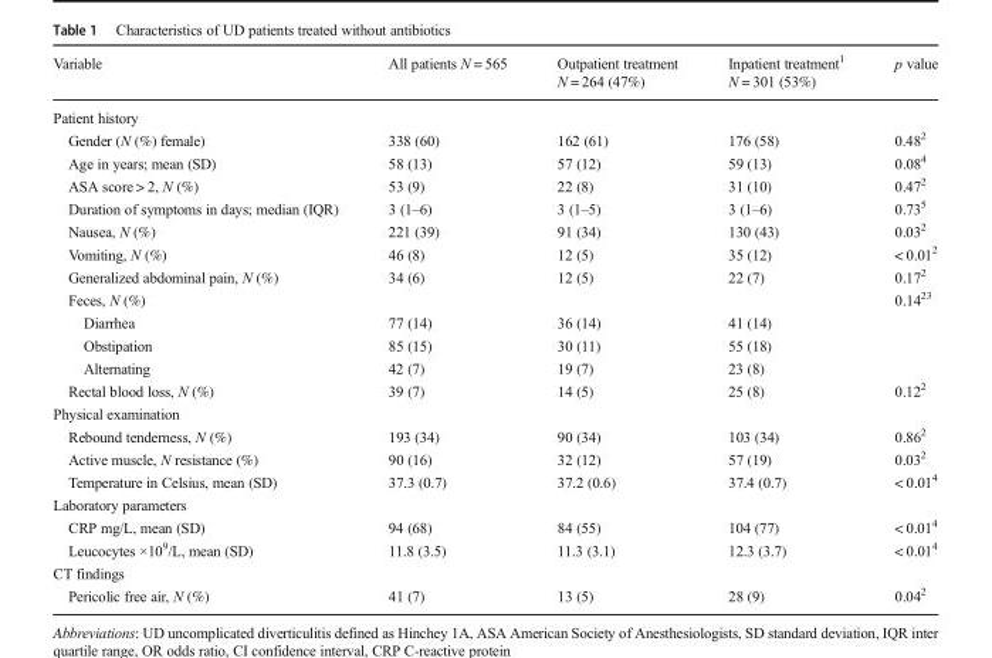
<table><thead><tr><td>Variable</td><td>All patients N = 565</td><td>Outpatient treatment N = 264 (47%)</td><td>Inpatient treatment<sup>1</sup> N = 301 (53%)</td><td>p value</td></tr></thead><tbody><tr><td colspan="5">Patient history</td></tr><tr><td>Gender (N (%) female)</td><td>338 (60)</td><td>162 (61)</td><td>176 (58)</td><td>0.48<sup>2</sup></td></tr><tr><td>Age in years; mean (SD)</td><td>58 (13)</td><td>57 (12)</td><td>59 (13)</td><td>0.08<sup>4</sup></td></tr><tr><td>ASA score &gt; 2, N (%)</td><td>53 (9)</td><td>22 (8)</td><td>31 (10)</td><td>0.47<sup>2</sup></td></tr><tr><td>Duration of symptoms in days; median (IQR)</td><td>3 (1–6)</td><td>3 (1–5)</td><td>3 (1–6)</td><td>0.73<sup>5</sup></td></tr><tr><td>Nausea, N (%)</td><td>221 (39)</td><td>91 (34)</td><td>130 (43)</td><td>0.03<sup>2</sup></td></tr><tr><td>Vomiting, N (%)</td><td>46 (8)</td><td>12 (5)</td><td>35 (12)</td><td>&lt; 0.01<sup>2</sup></td></tr><tr><td>Generalized abdominal pain, N (%)</td><td>34 (6)</td><td>12 (5)</td><td>22 (7)</td><td>0.17<sup>2</sup></td></tr><tr><td>Feces, N (%)</td><td></td><td></td><td></td><td>0.14<sup>23</sup></td></tr><tr><td>Diarrhea</td><td>77 (14)</td><td>36 (14)</td><td>41 (14)</td><td></td></tr><tr><td>Obstipation</td><td>85 (15)</td><td>30 (11)</td><td>55 (18)</td><td></td></tr><tr><td>Alternating</td><td>42 (7)</td><td>19 (7)</td><td>23 (8)</td><td></td></tr><tr><td>Rectal blood loss, N (%)</td><td>39 (7)</td><td>14 (5)</td><td>25 (8)</td><td>0.12<sup>2</sup></td></tr><tr><td colspan="5">Physical examination</td></tr><tr><td>Rebound tenderness, N (%)</td><td>193 (34)</td><td>90 (34)</td><td>103 (34)</td><td>0.86<sup>2</sup></td></tr><tr><td>Active muscle, N resistance (%)</td><td>90 (16)</td><td>32 (12)</td><td>57 (19)</td><td>0.03<sup>2</sup></td></tr><tr><td>Temperature in Celsius, mean (SD)</td><td>37.3 (0.7)</td><td>37.2 (0.6)</td><td>37.4 (0.7)</td><td>&lt; 0.01<sup>4</sup></td></tr><tr><td colspan="5">Laboratory parameters</td></tr><tr><td>CRP mg/L, mean (SD)</td><td>94 (68)</td><td>84 (55)</td><td>104 (77)</td><td>&lt; 0.01<sup>4</sup></td></tr><tr><td>Leucocytes ×10<sup>9</sup>/L, mean (SD)</td><td>11.8 (3.5)</td><td>11.3 (3.1)</td><td>12.3 (3.7)</td><td>&lt; 0.01<sup>4</sup></td></tr><tr><td colspan="5">CT findings</td></tr><tr><td>Pericolic free air, N (%)</td><td>41 (7)</td><td>13 (5)</td><td>28 (9)</td><td>0.04<sup>2</sup></td></tr></tbody></table>